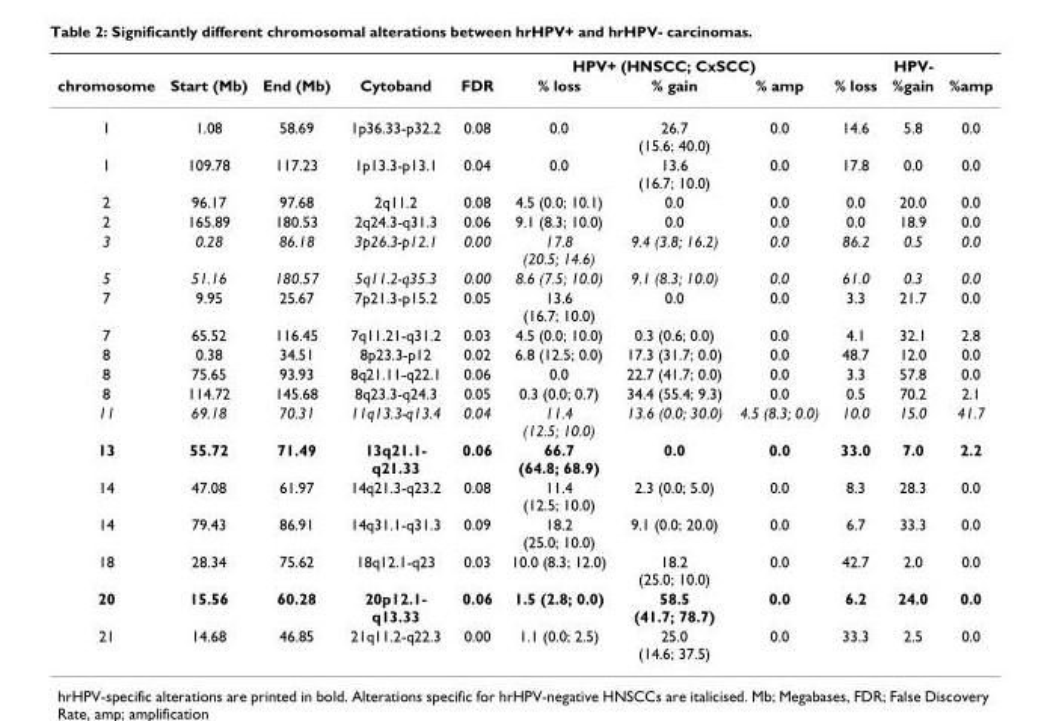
<table><thead><tr><td rowspan="2">chromosome</td><td rowspan="2">Start (Mb)</td><td rowspan="2">End (Mb)</td><td rowspan="2">Cytoband</td><td rowspan="2">FDR</td><td colspan="3">HPV+ (HNSCC; CxSCC)</td><td colspan="3">HPV-</td></tr><tr><td>% loss</td><td>% gain</td><td>% amp</td><td>% loss</td><td>%gain</td><td>%amp</td></tr></thead><tbody><tr><td>1</td><td>1.08</td><td>58.69</td><td>1p36.33-p32.2</td><td>0.08</td><td>0.0</td><td>26.7 (15.6; 40.0)</td><td>0.0</td><td>14.6</td><td>5.8</td><td>0.0</td></tr><tr><td>1</td><td>109.78</td><td>117.23</td><td>1p13.3-p13.1</td><td>0.04</td><td>0.0</td><td>13.6 (16.7; 10.0)</td><td>0.0</td><td>17.8</td><td>0.0</td><td>0.0</td></tr><tr><td>2</td><td>96.17</td><td>97.68</td><td>2q11.2</td><td>0.08</td><td>4.5 (0.0; 10.1)</td><td>0.0</td><td>0.0</td><td>0.0</td><td>20.0</td><td>0.0</td></tr><tr><td>2</td><td>165.89</td><td>180.53</td><td>2q24.3-q31.3</td><td>0.06</td><td>9.1 (8.3; 10.0)</td><td>0.0</td><td>0.0</td><td>0.0</td><td>18.9</td><td>0.0</td></tr><tr><td>3</td><td>0.28</td><td>86.18</td><td>3p26.3-p12.1</td><td>0.00</td><td>17.8 (20.5; 14.6)</td><td>9.4 (3.8; 16.2)</td><td>0.0</td><td>86.2</td><td>0.5</td><td>0.0</td></tr><tr><td>5</td><td>51.16</td><td>180.57</td><td>5q11.2-q35.3</td><td>0.00</td><td>8.6 (7.5; 10.0)</td><td>9.1 (8.3; 10.0)</td><td>0.0</td><td>61.0</td><td>0.3</td><td>0.0</td></tr><tr><td>7</td><td>9.95</td><td>25.67</td><td>7p21.3-p15.2</td><td>0.05</td><td>13.6 (16.7; 10.0)</td><td>0.0</td><td>0.0</td><td>3.3</td><td>21.7</td><td>0.0</td></tr><tr><td>7</td><td>65.52</td><td>116.45</td><td>7q11.21-q31.2</td><td>0.03</td><td>4.5 (0.0; 10.0)</td><td>0.3 (0.6; 0.0)</td><td>0.0</td><td>4.1</td><td>32.1</td><td>2.8</td></tr><tr><td>8</td><td>0.38</td><td>34.51</td><td>8p23.3-p12</td><td>0.02</td><td>6.8 (12.5; 0.0)</td><td>17.3 (31.7; 0.0)</td><td>0.0</td><td>48.7</td><td>12.0</td><td>0.0</td></tr><tr><td>8</td><td>75.65</td><td>93.93</td><td>8q21.11-q22.1</td><td>0.06</td><td>0.0</td><td>22.7 (41.7; 0.0)</td><td>0.0</td><td>3.3</td><td>57.8</td><td>0.0</td></tr><tr><td>8</td><td>114.72</td><td>145.68</td><td>8q23.3-q24.3</td><td>0.05</td><td>0.3 (0.0; 0.7)</td><td>34.4 (55.4; 9.3)</td><td>0.0</td><td>0.5</td><td>70.2</td><td>2.1</td></tr><tr><td>11</td><td>69.18</td><td>70.31</td><td>11q13.3-q13.4</td><td>0.04</td><td>11.4 (12.5; 10.0)</td><td>13.6 (0.0; 30.0)</td><td>4.5 (8.3; 0.0)</td><td>10.0</td><td>15.0</td><td>41.7</td></tr><tr><td>13</td><td>55.72</td><td>71.49</td><td>13q21.1- q21.33</td><td>0.06</td><td>66.7 (64.8; 68.9)</td><td>0.0</td><td>0.0</td><td>33.0</td><td>7.0</td><td>2.2</td></tr><tr><td>14</td><td>47.08</td><td>61.97</td><td>14q21.3-q23.2</td><td>0.08</td><td>11.4 (12.5; 10.0)</td><td>2.3 (0.0; 5.0)</td><td>0.0</td><td>8.3</td><td>28.3</td><td>0.0</td></tr><tr><td>14</td><td>79.43</td><td>86.91</td><td>14q31.1-q31.3</td><td>0.09</td><td>18.2 (25.0; 10.0)</td><td>9.1 (0.0; 20.0)</td><td>0.0</td><td>6.7</td><td>33.3</td><td>0.0</td></tr><tr><td>18</td><td>28.34</td><td>75.62</td><td>18q12.1-q23</td><td>0.03</td><td>10.0 (8.3; 12.0)</td><td>18.2 (25.0; 10.0)</td><td>0.0</td><td>42.7</td><td>2.0</td><td>0.0</td></tr><tr><td>20</td><td>15.56</td><td>60.28</td><td>20p12.1- q13.33</td><td>0.06</td><td>1.5 (2.8; 0.0)</td><td>58.5 (41.7; 78.7)</td><td>0.0</td><td>6.2</td><td>24.0</td><td>0.0</td></tr><tr><td>21</td><td>14.68</td><td>46.85</td><td>21q11.2-q22.3</td><td>0.00</td><td>1.1 (0.0; 2.5)</td><td>25.0 (14.6; 37.5)</td><td>0.0</td><td>33.3</td><td>2.5</td><td>0.0</td></tr></tbody></table>